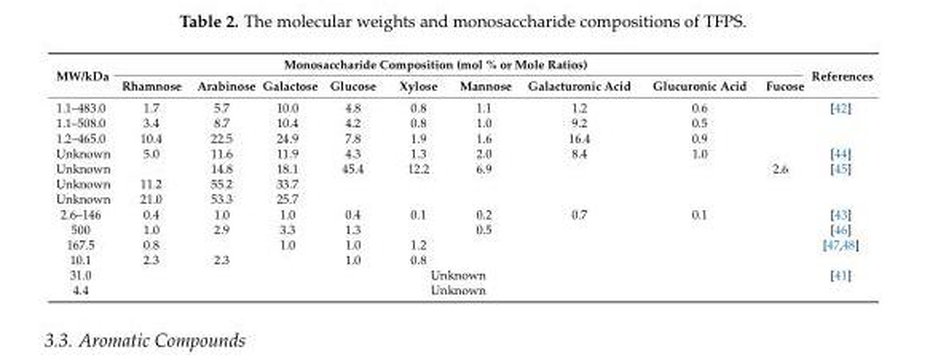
<table><thead><tr><td rowspan="2">MW/kDa</td><td colspan="8">Monosaccharide Composition (mol % or Mole Ratios)</td><td rowspan="2">Fucose</td><td rowspan="2">References</td></tr><tr><td>Rhamnose</td><td>Arabinose</td><td>Galactose</td><td>Glucose</td><td>Xylose</td><td>Mannose</td><td>Galacturonic Acid</td><td>Glucuronic Acid</td></tr></thead><tbody><tr><td>1.1–483.0</td><td>1.7</td><td>5.7</td><td>10.0</td><td>4.8</td><td>0.8</td><td>1.1</td><td>1.2</td><td>0.6</td><td></td><td>[42]</td></tr><tr><td>1.1–508.0</td><td>3.4</td><td>8.7</td><td>10.4</td><td>4.2</td><td>0.8</td><td>1.0</td><td>9.2</td><td>0.5</td><td></td><td rowspan="2"></td></tr><tr><td>1.2–465.0</td><td>10.4</td><td>22.5</td><td>24.9</td><td>7.8</td><td>1.9</td><td>1.6</td><td>16.4</td><td>0.9</td><td></td></tr><tr><td>Unknown</td><td>5.0</td><td>11.6</td><td>11.9</td><td>4.3</td><td>1.3</td><td>2.0</td><td>8.4</td><td>1.0</td><td></td><td>[44]</td></tr><tr><td>Unknown</td><td></td><td>14.8</td><td>18.1</td><td>45.4</td><td>12.2</td><td>6.9</td><td></td><td></td><td>2.6</td><td>[45]</td></tr><tr><td>Unknown</td><td>11.2</td><td>55.2</td><td>33.7</td><td></td><td></td><td></td><td></td><td></td><td></td><td rowspan="2"></td></tr><tr><td>Unknown</td><td>21.0</td><td>53.3</td><td>25.7</td><td></td><td></td><td></td><td></td><td></td><td></td></tr><tr><td>2.6–146</td><td>0.4</td><td>1.0</td><td>1.0</td><td>0.4</td><td>0.1</td><td>0.2</td><td>0.7</td><td>0.1</td><td></td><td>[43]</td></tr><tr><td>500</td><td>1.0</td><td>2.9</td><td>3.3</td><td>1.3</td><td></td><td>0.5</td><td></td><td></td><td></td><td>[46]</td></tr><tr><td>167.5</td><td>0.8</td><td></td><td>1.0</td><td>1.0</td><td>1.2</td><td></td><td></td><td></td><td></td><td>[47,48]</td></tr><tr><td>10.1</td><td>2.3</td><td>2.3</td><td></td><td>1.0</td><td>0.8</td><td></td><td></td><td></td><td></td><td></td></tr><tr><td>31.0</td><td colspan="9">Unknown</td><td>[41]</td></tr><tr><td>4.4</td><td colspan="9">Unknown</td><td></td></tr></tbody></table>